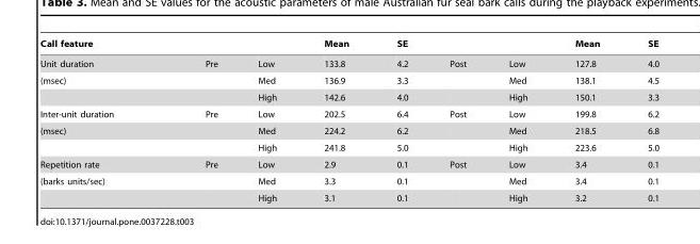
<table><thead><tr><td>Call feature</td><td></td><td></td><td>Mean</td><td>SE</td><td></td><td></td><td>Mean</td><td>SE</td></tr></thead><tbody><tr><td>Unit duration</td><td>Pre</td><td>Low</td><td>133.8</td><td>4.2</td><td>Post</td><td>Low</td><td>127.8</td><td>4.0</td></tr><tr><td rowspan="2">(msec)</td><td></td><td>Med</td><td>136.9</td><td>3.3</td><td></td><td>Med</td><td>138.1</td><td>4.5</td></tr><tr><td></td><td>High</td><td>142.6</td><td>4.0</td><td></td><td>High</td><td>150.1</td><td>3.3</td></tr><tr><td>Inter-unit duration</td><td>Pre</td><td>Low</td><td>202.5</td><td>6.4</td><td>Post</td><td>Low</td><td>199.8</td><td>6.2</td></tr><tr><td rowspan="2">(msec)</td><td></td><td>Med</td><td>224.2</td><td>6.2</td><td></td><td>Med</td><td>218.5</td><td>6.8</td></tr><tr><td></td><td>High</td><td>241.8</td><td>5.0</td><td></td><td>High</td><td>223.6</td><td>5.0</td></tr><tr><td>Repetition rate</td><td>Pre</td><td>Low</td><td>2.9</td><td>0.1</td><td>Post</td><td>Low</td><td>3.4</td><td>0.1</td></tr><tr><td rowspan="2">(barks units/sec)</td><td></td><td>Med</td><td>3.3</td><td>0.1</td><td></td><td>Med</td><td>3.4</td><td>0.1</td></tr><tr><td></td><td>High</td><td>3.1</td><td>0.1</td><td></td><td>High</td><td>3.2</td><td>0.1</td></tr></tbody></table>